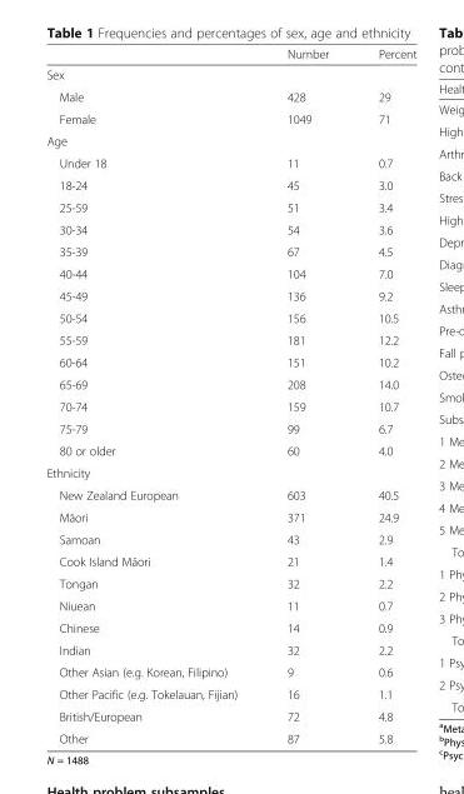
<table><thead><tr><td></td><td>Number</td><td>Percent</td></tr></thead><tbody><tr><td colspan="3">Sex</td></tr><tr><td>Male</td><td>428</td><td>29</td></tr><tr><td>Female</td><td>1049</td><td>71</td></tr><tr><td colspan="3">Age</td></tr><tr><td>Under 18</td><td>11</td><td>0.7</td></tr><tr><td>18-24</td><td>45</td><td>3.0</td></tr><tr><td>25-59</td><td>51</td><td>3.4</td></tr><tr><td>30-34</td><td>54</td><td>3.6</td></tr><tr><td>35-39</td><td>67</td><td>4.5</td></tr><tr><td>40-44</td><td>104</td><td>7.0</td></tr><tr><td>45-49</td><td>136</td><td>9.2</td></tr><tr><td>50-54</td><td>156</td><td>10.5</td></tr><tr><td>55-59</td><td>181</td><td>12.2</td></tr><tr><td>60-64</td><td>151</td><td>10.2</td></tr><tr><td>65-69</td><td>208</td><td>14.0</td></tr><tr><td>70-74</td><td>159</td><td>10.7</td></tr><tr><td>75-79</td><td>99</td><td>6.7</td></tr><tr><td>80 or older</td><td>60</td><td>4.0</td></tr><tr><td colspan="3">Ethnicity</td></tr><tr><td>New Zealand European</td><td>603</td><td>40.5</td></tr><tr><td>Māori</td><td>371</td><td>24.9</td></tr><tr><td>Samoan</td><td>43</td><td>2.9</td></tr><tr><td>Cook Island Māori</td><td>21</td><td>1.4</td></tr><tr><td>Tongan</td><td>32</td><td>2.2</td></tr><tr><td>Niuean</td><td>11</td><td>0.7</td></tr><tr><td>Chinese</td><td>14</td><td>0.9</td></tr><tr><td>Indian</td><td>32</td><td>2.2</td></tr><tr><td>Other Asian (e.g. Korean, Filipino)</td><td>9</td><td>0.6</td></tr><tr><td>Other Pacific (e.g. Tokelauan, Fijian)</td><td>16</td><td>1.1</td></tr><tr><td>British/European</td><td>72</td><td>4.8</td></tr><tr><td>Other</td><td>87</td><td>5.8</td></tr></tbody></table>